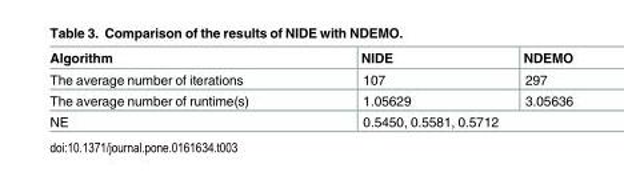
<table><thead><tr><td>Algorithm</td><td>NIDE</td><td>NDEMO</td></tr></thead><tbody><tr><td>The average number of iterations</td><td>107</td><td>297</td></tr><tr><td>The average number of runtime(s)</td><td>1.05629</td><td>3.05636</td></tr><tr><td>NE</td><td colspan="2">0.5450, 0.5581, 0.5712</td></tr></tbody></table>